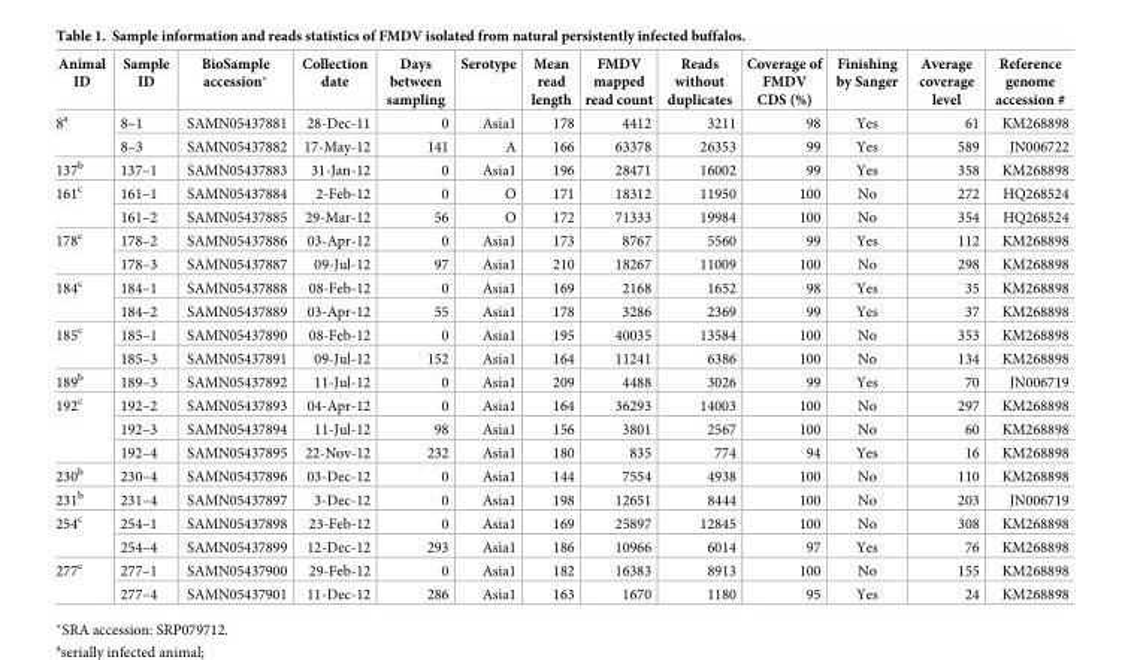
<table><thead><tr><td>Animal ID</td><td>Sample ID</td><td>BioSample accession*</td><td>Collection date</td><td>Days between sampling</td><td>Serotype</td><td>Mean read length</td><td>FMDV mapped read count</td><td>Reads without duplicates</td><td>Coverage of FMDV CDS (%)</td><td>Finishing by Sanger</td><td>Average coverage level</td><td>Reference genome accession #</td></tr></thead><tbody><tr><td rowspan="2">8<sup>a</sup></td><td>8–1</td><td>SAMN05437881</td><td>28-Dec-11</td><td>0</td><td>Asia1</td><td>178</td><td>4412</td><td>3211</td><td>98</td><td>Yes</td><td>61</td><td>KM268898</td></tr><tr><td>8–3</td><td>SAMN05437882</td><td>17-May-12</td><td>141</td><td>A</td><td>166</td><td>63378</td><td>26353</td><td>99</td><td>Yes</td><td>589</td><td>JN006722</td></tr><tr><td>137<sup>b</sup></td><td>137–1</td><td>SAMN05437883</td><td>31-Jan-12</td><td>0</td><td>Asia1</td><td>196</td><td>28471</td><td>16002</td><td>99</td><td>Yes</td><td>358</td><td>KM268898</td></tr><tr><td rowspan="2">161<sup>c</sup></td><td>161–1</td><td>SAMN05437884</td><td>2-Feb-12</td><td>0</td><td>O</td><td>171</td><td>18312</td><td>11950</td><td>100</td><td>No</td><td>272</td><td>HQ268524</td></tr><tr><td>161–2</td><td>SAMN05437885</td><td>29-Mar-12</td><td>56</td><td>O</td><td>172</td><td>71333</td><td>19984</td><td>100</td><td>No</td><td>354</td><td>HQ268524</td></tr><tr><td rowspan="2">178<sup>c</sup></td><td>178–2</td><td>SAMN05437886</td><td>03-Apr-12</td><td>0</td><td>Asia1</td><td>173</td><td>8767</td><td>5560</td><td>99</td><td>Yes</td><td>112</td><td>KM268898</td></tr><tr><td>178–3</td><td>SAMN05437887</td><td>09-Jul-12</td><td>97</td><td>Asia1</td><td>210</td><td>18267</td><td>11009</td><td>100</td><td>No</td><td>298</td><td>KM268898</td></tr><tr><td rowspan="2">184<sup>c</sup></td><td>184–1</td><td>SAMN05437888</td><td>08-Feb-12</td><td>0</td><td>Asia1</td><td>169</td><td>2168</td><td>1652</td><td>98</td><td>Yes</td><td>35</td><td>KM268898</td></tr><tr><td>184–2</td><td>SAMN05437889</td><td>03-Apr-12</td><td>55</td><td>Asia1</td><td>178</td><td>3286</td><td>2369</td><td>99</td><td>Yes</td><td>37</td><td>KM268898</td></tr><tr><td rowspan="2">185<sup>c</sup></td><td>185–1</td><td>SAMN05437890</td><td>08-Feb-12</td><td>0</td><td>Asia1</td><td>195</td><td>40035</td><td>13584</td><td>100</td><td>No</td><td>353</td><td>KM268898</td></tr><tr><td>185–3</td><td>SAMN05437891</td><td>09-Jul-12</td><td>152</td><td>Asia1</td><td>164</td><td>11241</td><td>6386</td><td>100</td><td>No</td><td>134</td><td>KM268898</td></tr><tr><td>189<sup>b</sup></td><td>189–3</td><td>SAMN05437892</td><td>11-Jul-12</td><td>0</td><td>Asia1</td><td>209</td><td>4488</td><td>3026</td><td>99</td><td>Yes</td><td>70</td><td>JN006719</td></tr><tr><td rowspan="3">192<sup>c</sup></td><td>192–2</td><td>SAMN05437893</td><td>04-Apr-12</td><td>0</td><td>Asia1</td><td>164</td><td>36293</td><td>14003</td><td>100</td><td>No</td><td>297</td><td>KM268898</td></tr><tr><td>192–3</td><td>SAMN05437894</td><td>11-Jul-12</td><td>98</td><td>Asia1</td><td>156</td><td>3801</td><td>2567</td><td>100</td><td>No</td><td>60</td><td>KM268898</td></tr><tr><td>192–4</td><td>SAMN05437895</td><td>22-Nov-12</td><td>232</td><td>Asia1</td><td>180</td><td>835</td><td>774</td><td>94</td><td>Yes</td><td>16</td><td>KM268898</td></tr><tr><td>230<sup>b</sup></td><td>230–4</td><td>SAMN05437896</td><td>03-Dec-12</td><td>0</td><td>Asia1</td><td>144</td><td>7554</td><td>4938</td><td>100</td><td>No</td><td>110</td><td>KM268898</td></tr><tr><td>231<sup>b</sup></td><td>231–4</td><td>SAMN05437897</td><td>3-Dec-12</td><td>0</td><td>Asia1</td><td>198</td><td>12651</td><td>8444</td><td>100</td><td>No</td><td>203</td><td>JN006719</td></tr><tr><td rowspan="2">254<sup>c</sup></td><td>254–1</td><td>SAMN05437898</td><td>23-Feb-12</td><td>0</td><td>Asia1</td><td>169</td><td>25897</td><td>12845</td><td>100</td><td>No</td><td>308</td><td>KM268898</td></tr><tr><td>254–4</td><td>SAMN05437899</td><td>12-Dec-12</td><td>293</td><td>Asia1</td><td>186</td><td>10966</td><td>6014</td><td>97</td><td>Yes</td><td>76</td><td>KM268898</td></tr><tr><td rowspan="2">277<sup>c</sup></td><td>277–1</td><td>SAMN05437900</td><td>29-Feb-12</td><td>0</td><td>Asia1</td><td>182</td><td>16383</td><td>8913</td><td>100</td><td>No</td><td>155</td><td>KM268898</td></tr><tr><td>277–4</td><td>SAMN05437901</td><td>11-Dec-12</td><td>286</td><td>Asia1</td><td>163</td><td>1670</td><td>1180</td><td>95</td><td>Yes</td><td>24</td><td>KM268898</td></tr></tbody></table>